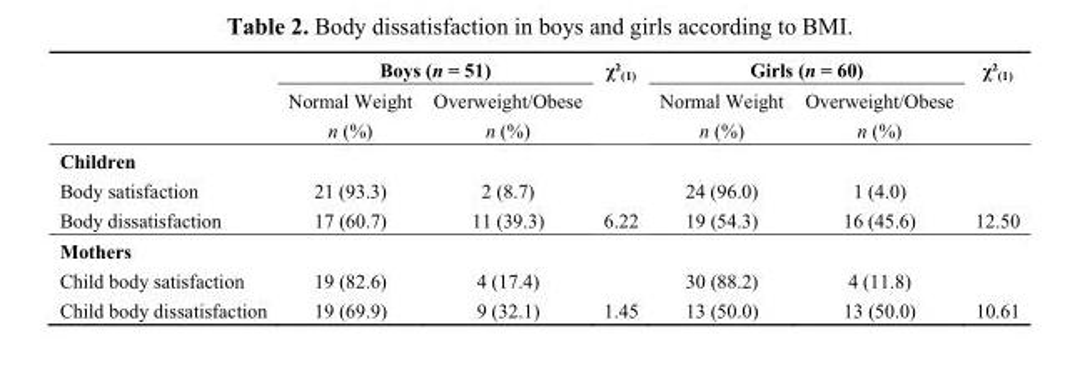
<table><thead><tr><td rowspan="2"></td><td colspan="2">Boys (n = 51)</td><td rowspan="2">χ²<sub>(1)</sub></td><td colspan="2">Girls (n = 60)</td><td rowspan="2">χ²<sub>(1)</sub></td></tr><tr><td>Normal Weight n (%)</td><td>Overweight/Obese n (%)</td><td>Normal Weight n (%)</td><td>Overweight/Obese n (%)</td></tr></thead><tbody><tr><td colspan="7">Children</td></tr><tr><td>Body satisfaction</td><td>21 (93.3)</td><td>2 (8.7)</td><td></td><td>24 (96.0)</td><td>1 (4.0)</td><td></td></tr><tr><td>Body dissatisfaction</td><td>17 (60.7)</td><td>11 (39.3)</td><td>6.22</td><td>19 (54.3)</td><td>16 (45.6)</td><td>12.50</td></tr><tr><td colspan="7">Mothers</td></tr><tr><td>Child body satisfaction</td><td>19 (82.6)</td><td>4 (17.4)</td><td></td><td>30 (88.2)</td><td>4 (11.8)</td><td></td></tr><tr><td>Child body dissatisfaction</td><td>19 (69.9)</td><td>9 (32.1)</td><td>1.45</td><td>13 (50.0)</td><td>13 (50.0)</td><td>10.61</td></tr></tbody></table>